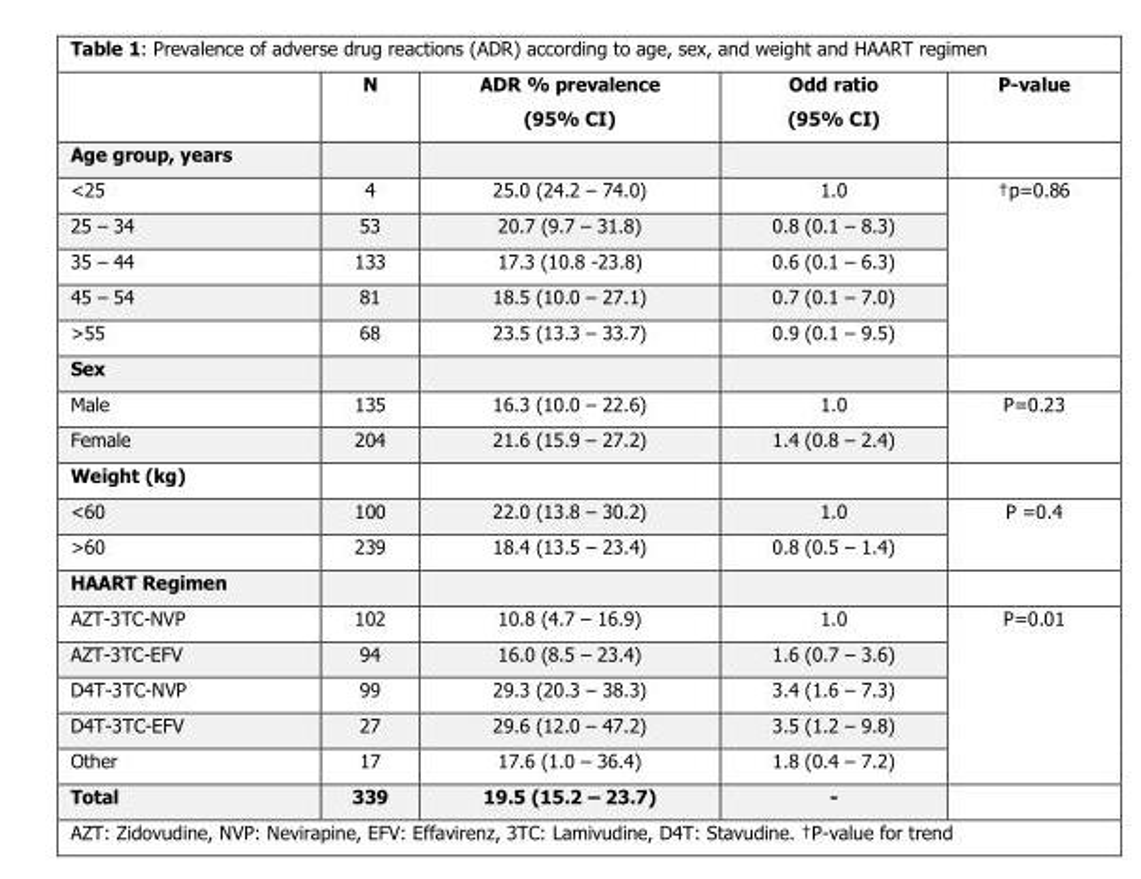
<table><thead><tr><td></td><td>N</td><td>ADR % prevalence (95% CI)</td><td>Odd ratio (95% CI)</td><td>P-value</td></tr></thead><tbody><tr><td colspan="5">Age group, years</td></tr><tr><td>&lt;25</td><td>4</td><td>25.0 (24.2 – 74.0)</td><td>1.0</td><td rowspan="5">†p=0.86</td></tr><tr><td>25 – 34</td><td>53</td><td>20.7 (9.7 – 31.8)</td><td>0.8 (0.1 – 8.3)</td></tr><tr><td>35 – 44</td><td>133</td><td>17.3 (10.8 -23.8)</td><td>0.6 (0.1 – 6.3)</td></tr><tr><td>45 – 54</td><td>81</td><td>18.5 (10.0 – 27.1)</td><td>0.7 (0.1 – 7.0)</td></tr><tr><td>&gt;55</td><td>68</td><td>23.5 (13.3 – 33.7)</td><td>0.9 (0.1 – 9.5)</td></tr><tr><td colspan="5">Sex</td></tr><tr><td>Male</td><td>135</td><td>16.3 (10.0 – 22.6)</td><td>1.0</td><td rowspan="2">P=0.23</td></tr><tr><td>Female</td><td>204</td><td>21.6 (15.9 – 27.2)</td><td>1.4 (0.8 – 2.4)</td></tr><tr><td colspan="5">Weight (kg)</td></tr><tr><td>&lt;60</td><td>100</td><td>22.0 (13.8 – 30.2)</td><td>1.0</td><td rowspan="2">P =0.4</td></tr><tr><td>&gt;60</td><td>239</td><td>18.4 (13.5 – 23.4)</td><td>0.8 (0.5 – 1.4)</td></tr><tr><td colspan="5">HAART Regimen</td></tr><tr><td>AZT-3TC-NVP</td><td>102</td><td>10.8 (4.7 – 16.9)</td><td>1.0</td><td rowspan="5">P=0.01</td></tr><tr><td>AZT-3TC-EFV</td><td>94</td><td>16.0 (8.5 – 23.4)</td><td>1.6 (0.7 – 3.6)</td></tr><tr><td>D4T-3TC-NVP</td><td>99</td><td>29.3 (20.3 – 38.3)</td><td>3.4 (1.6 – 7.3)</td></tr><tr><td>D4T-3TC-EFV</td><td>27</td><td>29.6 (12.0 – 47.2)</td><td>3.5 (1.2 – 9.8)</td></tr><tr><td>Other</td><td>17</td><td>17.6 (1.0 – 36.4)</td><td>1.8 (0.4 – 7.2)</td></tr><tr><td>Total</td><td>339</td><td>19.5 (15.2 – 23.7)</td><td>-</td><td></td></tr></tbody></table>